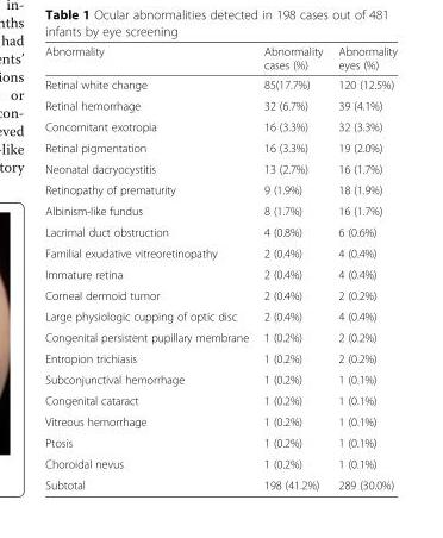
<table><thead><tr><td>Abnormality</td><td>Abnormality cases (%)</td><td>Abnormality eyes (%)</td></tr></thead><tbody><tr><td>Retinal white change</td><td>85(17.7%)</td><td>120 (12.5%)</td></tr><tr><td>Retinal hemorrhage</td><td>32 (6.7%)</td><td>39 (4.1%)</td></tr><tr><td>Concomitant exotropia</td><td>16 (3.3%)</td><td>32 (3.3%)</td></tr><tr><td>Retinal pigmentation</td><td>16 (3.3%)</td><td>19 (2.0%)</td></tr><tr><td>Neonatal dacryocystitis</td><td>13 (2.7%)</td><td>16 (1.7%)</td></tr><tr><td>Retinopathy of prematurity</td><td>9 (1.9%)</td><td>18 (1.9%)</td></tr><tr><td>Albinism-like fundus</td><td>8 (1.7%)</td><td>16 (1.7%)</td></tr><tr><td>Lacrimal duct obstruction</td><td>4 (0.8%)</td><td>6 (0.6%)</td></tr><tr><td>Familial exudative vitreoretinopathy</td><td>2 (0.4%)</td><td>4 (0.4%)</td></tr><tr><td>Immature retina</td><td>2 (0.4%)</td><td>4 (0.4%)</td></tr><tr><td>Corneal dermoid tumor</td><td>2 (0.4%)</td><td>2 (0.2%)</td></tr><tr><td>Large physiologic cupping of optic disc</td><td>2 (0.4%)</td><td>4 (0.4%)</td></tr><tr><td>Congenital persistent pupillary membrane</td><td>1 (0.2%)</td><td>2 (0.2%)</td></tr><tr><td>Entropion trichiasis</td><td>1 (0.2%)</td><td>2 (0.2%)</td></tr><tr><td>Subconjunctival hemorrhage</td><td>1 (0.2%)</td><td>1 (0.1%)</td></tr><tr><td>Congenital cataract</td><td>1 (0.2%)</td><td>1 (0.1%)</td></tr><tr><td>Vitreous hemorrhage</td><td>1 (0.2%)</td><td>1 (0.1%)</td></tr><tr><td>Ptosis</td><td>1 (0.2%)</td><td>1 (0.1%)</td></tr><tr><td>Choroidal nevus</td><td>1 (0.2%)</td><td>1 (0.1%)</td></tr><tr><td>Subtotal</td><td>198 (41.2%)</td><td>289 (30.0%)</td></tr></tbody></table>